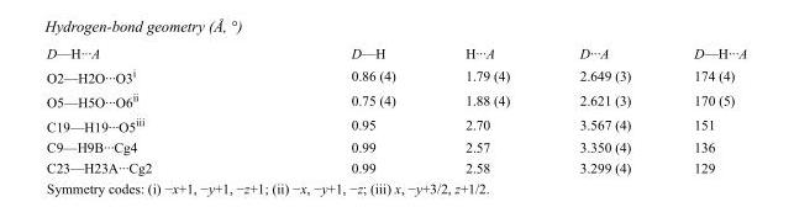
<table><tbody><tr><td>D—H···A</td><td>D—H</td><td>H···A</td><td>D···A</td><td>D—H···A</td></tr><tr><td>O2—H2O···O3<sup>i</sup></td><td>0.86 (4)</td><td>1.79 (4)</td><td>2.649 (3)</td><td>174 (4)</td></tr><tr><td>O5—H5O···O6<sup>ii</sup></td><td>0.75 (4)</td><td>1.88 (4)</td><td>2.621 (3)</td><td>170 (5)</td></tr><tr><td>C19—H19···O5<sup>iii</sup></td><td>0.95</td><td>2.70</td><td>3.567 (4)</td><td>151</td></tr><tr><td>C9—H9B···Cg4</td><td>0.99</td><td>2.57</td><td>3.350 (4)</td><td>136</td></tr><tr><td>C23—H23A···Cg2</td><td>0.99</td><td>2.58</td><td>3.299 (4)</td><td>129</td></tr></tbody></table>